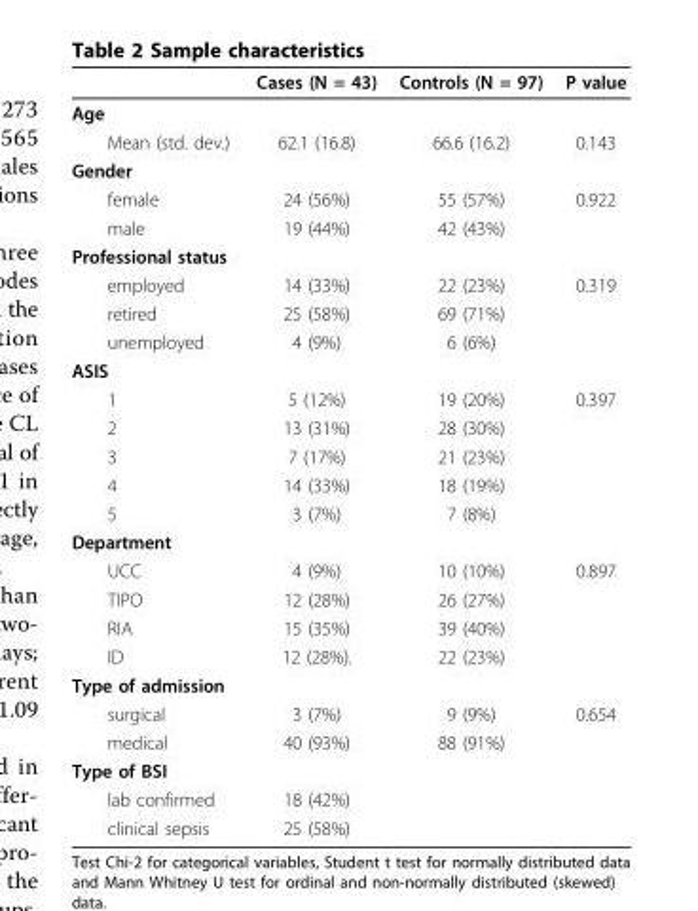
<table><thead><tr><td></td><td>Cases (N = 43)</td><td>Controls (N = 97)</td><td>P value</td></tr></thead><tbody><tr><td colspan="4">Age</td></tr><tr><td>Mean (std. dev.)</td><td>62.1 (16.8)</td><td>66.6 (16.2)</td><td>0.143</td></tr><tr><td colspan="4">Gender</td></tr><tr><td>female</td><td>24 (56%)</td><td>55 (57%)</td><td>0.922</td></tr><tr><td>male</td><td>19 (44%)</td><td>42 (43%)</td><td></td></tr><tr><td colspan="4">Professional status</td></tr><tr><td>employed</td><td>14 (33%)</td><td>22 (23%)</td><td>0.319</td></tr><tr><td>retired</td><td>25 (58%)</td><td>69 (71%)</td><td></td></tr><tr><td>unemployed</td><td>4 (9%)</td><td>6 (6%)</td><td></td></tr><tr><td colspan="4">ASIS</td></tr><tr><td>1</td><td>5 (12%)</td><td>19 (20%)</td><td>0.397</td></tr><tr><td>2</td><td>13 (31%)</td><td>28 (30%)</td><td></td></tr><tr><td>3</td><td>7 (17%)</td><td>21 (23%)</td><td></td></tr><tr><td>4</td><td>14 (33%)</td><td>18 (19%)</td><td></td></tr><tr><td>5</td><td>3 (7%)</td><td>7 (8%)</td><td></td></tr><tr><td colspan="4">Department</td></tr><tr><td>UCC</td><td>4 (9%)</td><td>10 (10%)</td><td>0.897</td></tr><tr><td>TIPO</td><td>12 (28%)</td><td>26 (27%)</td><td></td></tr><tr><td>RIA</td><td>15 (35%)</td><td>39 (40%)</td><td></td></tr><tr><td>ID</td><td>12 (28%).</td><td>22 (23%)</td><td></td></tr><tr><td colspan="4">Type of admission</td></tr><tr><td>surgical</td><td>3 (7%)</td><td>9 (9%)</td><td>0.654</td></tr><tr><td>medical</td><td>40 (93%)</td><td>88 (91%)</td><td></td></tr><tr><td colspan="4">Type of BSI</td></tr><tr><td>lab confirmed</td><td>18 (42%)</td><td></td><td></td></tr><tr><td>clinical sepsis</td><td>25 (58%)</td><td></td><td></td></tr></tbody></table>